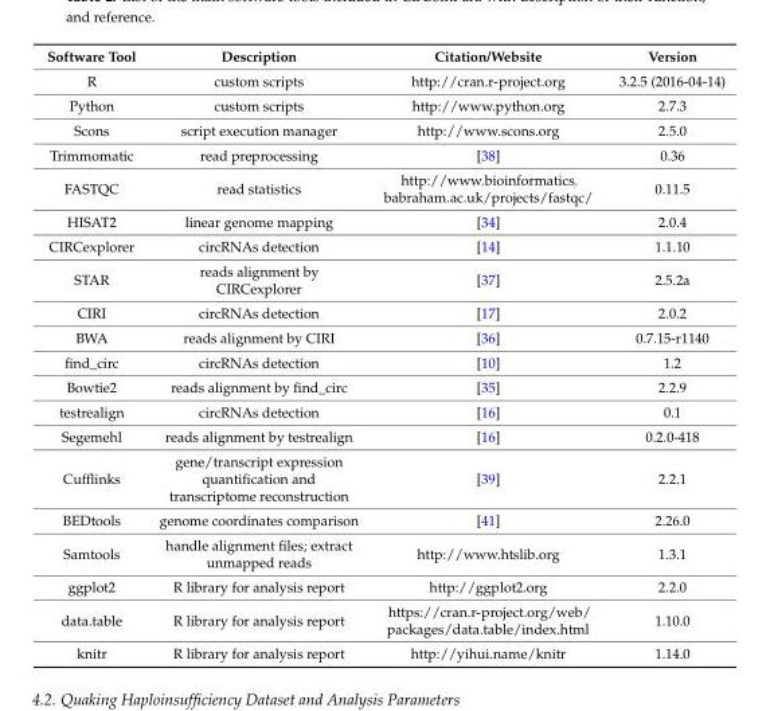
<table><thead><tr><td>Software Tool</td><td>Description</td><td>Citation/Website</td><td>Version</td></tr></thead><tbody><tr><td>R</td><td>custom scripts</td><td>http://cran.r-project.org</td><td>3.2.5 (2016-04-14)</td></tr><tr><td>Python</td><td>custom scripts</td><td>http://www.python.org</td><td>2.7.3</td></tr><tr><td>Scons</td><td>script execution manager</td><td>http://www.scons.org</td><td>2.5.0</td></tr><tr><td>Trimmomatic</td><td>read preprocessing</td><td>[38]</td><td>0.36</td></tr><tr><td>FASTQC</td><td>read statistics</td><td>http://www.bioinformatics. babraham.ac.uk/projects/fastqc/</td><td>0.11.5</td></tr><tr><td>HISAT2</td><td>linear genome mapping</td><td>[34]</td><td>2.0.4</td></tr><tr><td>CIRCexplorer</td><td>circRNAs detection</td><td>[14]</td><td>1.1.10</td></tr><tr><td>STAR</td><td>reads alignment by CIRCexplorer</td><td>[37]</td><td>2.5.2a</td></tr><tr><td>CIRI</td><td>circRNAs detection</td><td>[17]</td><td>2.0.2</td></tr><tr><td>BWA</td><td>reads alignment by CIRI</td><td>[36]</td><td>0.7.15-r1140</td></tr><tr><td>find_circ</td><td>circRNAs detection</td><td>[10]</td><td>1.2</td></tr><tr><td>Bowtie2</td><td>reads alignment by find_circ</td><td>[35]</td><td>2.2.9</td></tr><tr><td>testrealign</td><td>circRNAs detection</td><td>[16]</td><td>0.1</td></tr><tr><td>Segemehl</td><td>reads alignment by testrealign</td><td>[16]</td><td>0.2.0-418</td></tr><tr><td>Cufflinks</td><td>gene/transcript expression quantification and transcriptome reconstruction</td><td>[39]</td><td>2.2.1</td></tr><tr><td>BEDtools</td><td>genome coordinates comparison</td><td>[41]</td><td>2.26.0</td></tr><tr><td>Samtools</td><td>handle alignment files; extract unmapped reads</td><td>http://www.htslib.org</td><td>1.3.1</td></tr><tr><td>ggplot2</td><td>R library for analysis report</td><td>http://ggplot2.org</td><td>2.2.0</td></tr><tr><td>data.table</td><td>R library for analysis report</td><td>https://cran.r-project.org/web/ packages/data.table/index.html</td><td>1.10.0</td></tr><tr><td>knitr</td><td>R library for analysis report</td><td>http://yihui.name/knitr</td><td>1.14.0</td></tr></tbody></table>